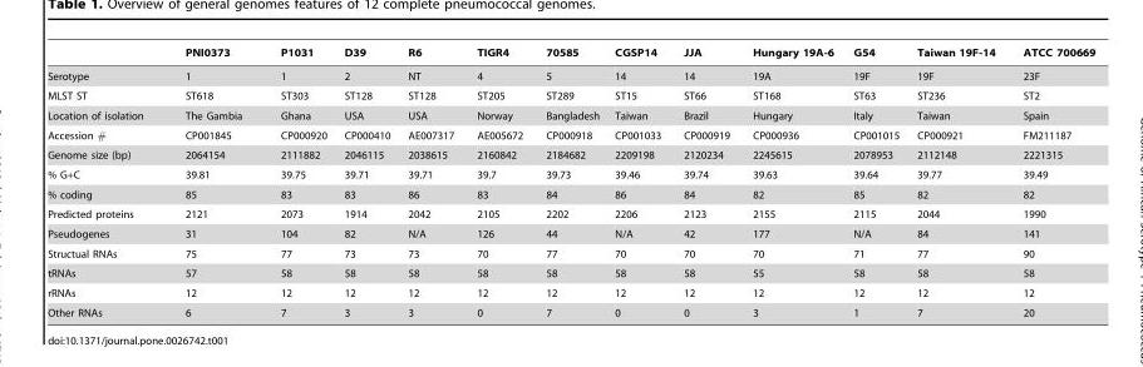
<table><thead><tr><td></td><td>PNI0373</td><td>P1031</td><td>D39</td><td>R6</td><td>TIGR4</td><td>70585</td><td>CGSP14</td><td>JJA</td><td>Hungary 19A-6</td><td>G54</td><td>Taiwan 19F-14</td><td>ATCC 700669</td></tr></thead><tbody><tr><td>Serotype</td><td>1</td><td>1</td><td>2</td><td>NT</td><td>4</td><td>5</td><td>14</td><td>14</td><td>19A</td><td>19F</td><td>19F</td><td>23F</td></tr><tr><td>MLST ST</td><td>ST618</td><td>ST303</td><td>ST128</td><td>ST128</td><td>ST205</td><td>ST289</td><td>ST15</td><td>ST66</td><td>ST168</td><td>ST63</td><td>ST236</td><td>ST2</td></tr><tr><td>Location of isolation</td><td>The Gambia</td><td>Ghana</td><td>USA</td><td>USA</td><td>Norway</td><td>Bangladesh</td><td>Taiwan</td><td>Brazil</td><td>Hungary</td><td>Italy</td><td>Taiwan</td><td>Spain</td></tr><tr><td>Accession #</td><td>CP001845</td><td>CP000920</td><td>CP000410</td><td>AE007317</td><td>AE005672</td><td>CP000918</td><td>CP001033</td><td>CP000919</td><td>CP000936</td><td>CP001015</td><td>CP000921</td><td>FM211187</td></tr><tr><td>Genome size (bp)</td><td>2064154</td><td>2111882</td><td>2046115</td><td>2038615</td><td>2160842</td><td>2184682</td><td>2209198</td><td>2120234</td><td>2245615</td><td>2078953</td><td>2112148</td><td>2221315</td></tr><tr><td>% G+C</td><td>39.81</td><td>39.75</td><td>39.71</td><td>39.71</td><td>39.7</td><td>39.73</td><td>39.46</td><td>39.74</td><td>39.63</td><td>39.64</td><td>39.77</td><td>39.49</td></tr><tr><td>% coding</td><td>85</td><td>83</td><td>83</td><td>86</td><td>83</td><td>84</td><td>86</td><td>84</td><td>82</td><td>85</td><td>82</td><td>82</td></tr><tr><td>Predicted proteins</td><td>2121</td><td>2073</td><td>1914</td><td>2042</td><td>2105</td><td>2202</td><td>2206</td><td>2123</td><td>2155</td><td>2115</td><td>2044</td><td>1990</td></tr><tr><td>Pseudogenes</td><td>31</td><td>104</td><td>82</td><td>N/A</td><td>126</td><td>44</td><td>N/A</td><td>42</td><td>177</td><td>N/A</td><td>84</td><td>141</td></tr><tr><td>Structual RNAs</td><td>75</td><td>77</td><td>73</td><td>73</td><td>70</td><td>77</td><td>70</td><td>70</td><td>70</td><td>71</td><td>77</td><td>90</td></tr><tr><td>tRNAs</td><td>57</td><td>58</td><td>58</td><td>58</td><td>58</td><td>58</td><td>58</td><td>58</td><td>55</td><td>58</td><td>58</td><td>58</td></tr><tr><td>rRNAs</td><td>12</td><td>12</td><td>12</td><td>12</td><td>12</td><td>12</td><td>12</td><td>12</td><td>12</td><td>12</td><td>12</td><td>12</td></tr><tr><td>Other RNAs</td><td>6</td><td>7</td><td>3</td><td>3</td><td>0</td><td>7</td><td>0</td><td>0</td><td>3</td><td>1</td><td>7</td><td>20</td></tr></tbody></table>